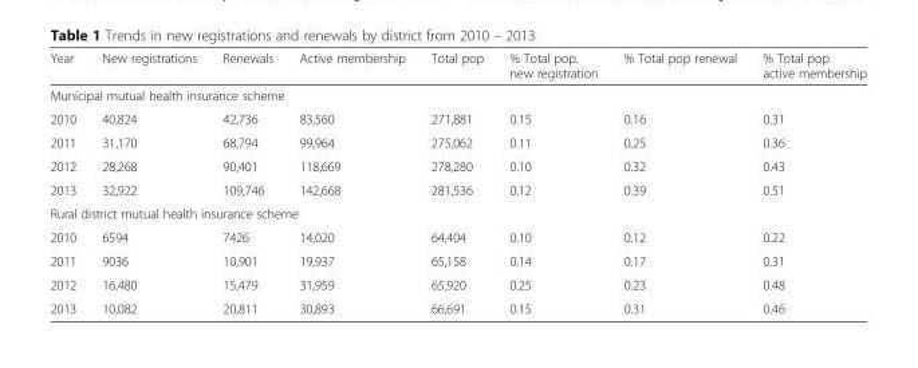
<table><thead><tr><td>Year</td><td>New registrations</td><td>Renewals</td><td>Active membership</td><td>Total pop</td><td>% Total pop. new registration</td><td>% Total pop renewal</td><td>% Total pop active membership</td></tr></thead><tbody><tr><td colspan="8">Municipal mutual health insurance scheme</td></tr><tr><td>2010</td><td>40,824</td><td>42,736</td><td>83,560</td><td>271,881</td><td>0.15</td><td>0.16</td><td>0.31</td></tr><tr><td>2011</td><td>31,170</td><td>68,794</td><td>99,964</td><td>275,062</td><td>0.11</td><td>0.25</td><td>0.36</td></tr><tr><td>2012</td><td>28,268</td><td>90,401</td><td>118,669</td><td>278,280</td><td>0.10</td><td>0.32</td><td>0.43</td></tr><tr><td>2013</td><td>32,922</td><td>109,746</td><td>142,668</td><td>281,536</td><td>0.12</td><td>0.39</td><td>0.51</td></tr><tr><td colspan="8">Rural district mutual health insurance scheme</td></tr><tr><td>2010</td><td>6594</td><td>7426</td><td>14,020</td><td>64,404</td><td>0.10</td><td>0.12</td><td>0.22</td></tr><tr><td>2011</td><td>9036</td><td>10,901</td><td>19,937</td><td>65,158</td><td>0.14</td><td>0.17</td><td>0.31</td></tr><tr><td>2012</td><td>16,480</td><td>15,479</td><td>31,959</td><td>65,920</td><td>0.25</td><td>0.23</td><td>0.48</td></tr><tr><td>2013</td><td>10,082</td><td>20,811</td><td>30,893</td><td>66,691</td><td>0.15</td><td>0.31</td><td>0.46</td></tr></tbody></table>